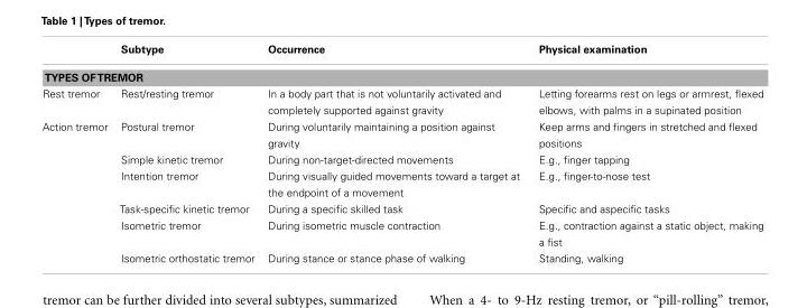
<table><thead><tr><td></td><td>Subtype</td><td>Occurrence</td><td>Physical examination</td></tr></thead><tbody><tr><td colspan="4">TYPES OFTREMOR</td></tr><tr><td>Rest tremor</td><td>Rest/resting tremor</td><td>In a body part that is not voluntarily activated and completely supported against gravity</td><td>Letting forearms rest on legs or armrest, flexed elbows, with palms in a supinated position</td></tr><tr><td rowspan="6">Action tremor</td><td>Postural tremor</td><td>During voluntarily maintaining a position against gravity</td><td>Keep arms and fingers in stretched and flexed positions</td></tr><tr><td>Simple kinetic tremor</td><td>During non-target-directed movements</td><td>E.g., finger tapping</td></tr><tr><td>Intention tremor</td><td>During visually guided movements toward a target at the endpoint of a movement</td><td>E.g., finger-to-nose test</td></tr><tr><td>Task-specific kinetic tremor</td><td>During a specific skilled task</td><td>Specific and aspecific tasks</td></tr><tr><td>Isometric tremor</td><td>During isometric muscle contraction</td><td>E.g., contraction against a static object, making a fist</td></tr><tr><td>Isometric orthostatic tremor</td><td>During stance or stance phase of walking</td><td>Standing, walking</td></tr></tbody></table>